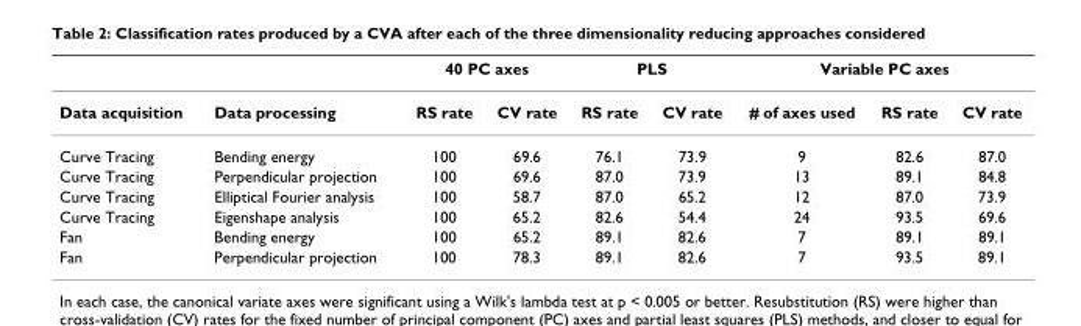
<table><thead><tr><td rowspan="2">Data acquisition</td><td rowspan="2">Data processing</td><td colspan="2">40 PC axes</td><td colspan="2">PLS</td><td colspan="3">Variable PC axes</td></tr><tr><td>RS rate</td><td>CV rate</td><td>RS rate</td><td>CV rate</td><td># of axes used</td><td>RS rate</td><td>CV rate</td></tr></thead><tbody><tr><td>Curve Tracing</td><td>Bending energy</td><td>100</td><td>69.6</td><td>76.1</td><td>73.9</td><td>9</td><td>82.6</td><td>87.0</td></tr><tr><td>Curve Tracing</td><td>Perpendicular projection</td><td>100</td><td>69.6</td><td>87.0</td><td>73.9</td><td>13</td><td>89.1</td><td>84.8</td></tr><tr><td>Curve Tracing</td><td>Elliptical Fourier analysis</td><td>100</td><td>58.7</td><td>87.0</td><td>65.2</td><td>12</td><td>87.0</td><td>73.9</td></tr><tr><td>Curve Tracing</td><td>Eigenshape analysis</td><td>100</td><td>65.2</td><td>82.6</td><td>54.4</td><td>24</td><td>93.5</td><td>69.6</td></tr><tr><td>Fan</td><td>Bending energy</td><td>100</td><td>65.2</td><td>89.1</td><td>82.6</td><td>7</td><td>89.1</td><td>89.1</td></tr><tr><td>Fan</td><td>Perpendicular projection</td><td>100</td><td>78.3</td><td>89.1</td><td>82.6</td><td>7</td><td>93.5</td><td>89.1</td></tr></tbody></table>